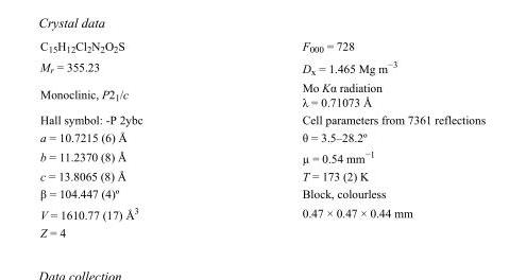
<table><tbody><tr><td>C<sub>15</sub>H<sub>12</sub>Cl<sub>2</sub>N<sub>2</sub>O<sub>2</sub>S</td><td>F000 = 728</td></tr><tr><td>M<sub>r</sub> = 355.23</td><td>D<sub>x</sub> = 1.465 Mg m<sup>−3</sup></td></tr><tr><td>Monoclinic, P2<sub>1</sub>/c</td><td>Mo Kα radiation λ = 0.71073 Å</td></tr><tr><td>Hall symbol: -P 2ybc</td><td>Cell parameters from 7361 reflections</td></tr><tr><td>a = 10.7215 (6) Å</td><td>θ = 3.5–28.2º</td></tr><tr><td>b = 11.2370 (8) Å</td><td>µ = 0.54 mm<sup>−1</sup></td></tr><tr><td>c = 13.8065 (8) Å</td><td>T = 173 (2) K</td></tr><tr><td>β = 104.447 (4)º</td><td>Block, colourless</td></tr><tr><td>V = 1610.77 (17) Å<sup>3</sup></td><td>0.47 × 0.47 × 0.44 mm</td></tr><tr><td>Z = 4</td><td></td></tr></tbody></table>